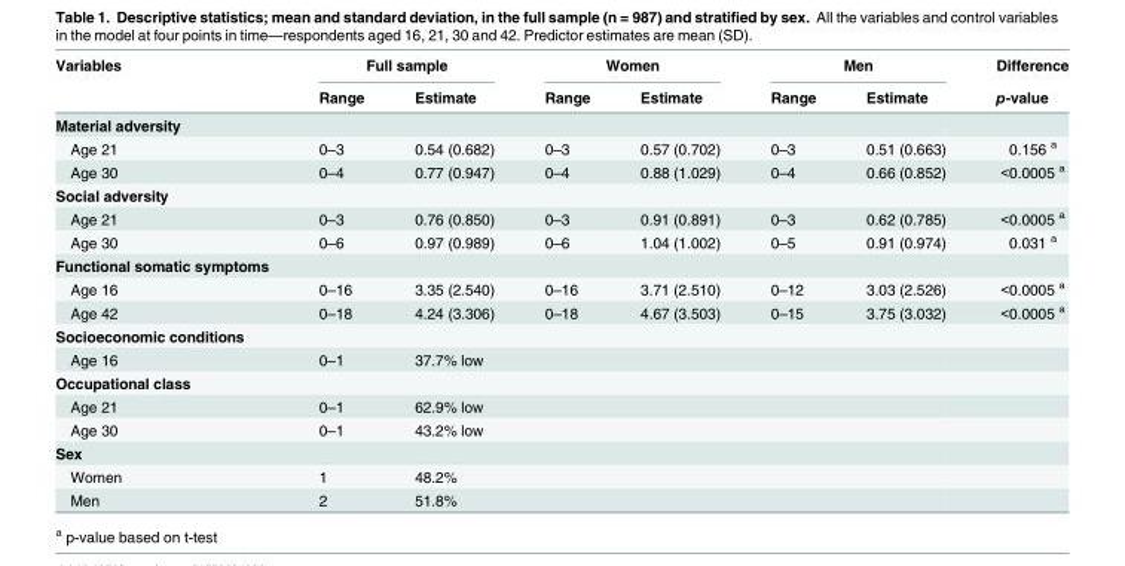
<table><thead><tr><td rowspan="2">Variables</td><td colspan="2">Full sample</td><td colspan="2">Women</td><td colspan="2">Men</td><td rowspan="2">Difference p-value</td></tr><tr><td>Range</td><td>Estimate</td><td>Range</td><td>Estimate</td><td>Range</td><td>Estimate</td></tr></thead><tbody><tr><td colspan="8">Material adversity</td></tr><tr><td>Age 21</td><td>0–3</td><td>0.54 (0.682)</td><td>0–3</td><td>0.57 (0.702)</td><td>0–3</td><td>0.51 (0.663)</td><td>0.156 <sup>a</sup></td></tr><tr><td>Age 30</td><td>0–4</td><td>0.77 (0.947)</td><td>0–4</td><td>0.88 (1.029)</td><td>0–4</td><td>0.66 (0.852)</td><td>&lt;0.0005 <sup>a</sup></td></tr><tr><td colspan="8">Social adversity</td></tr><tr><td>Age 21</td><td>0–3</td><td>0.76 (0.850)</td><td>0–3</td><td>0.91 (0.891)</td><td>0–3</td><td>0.62 (0.785)</td><td>&lt;0.0005 <sup>a</sup></td></tr><tr><td>Age 30</td><td>0–6</td><td>0.97 (0.989)</td><td>0–6</td><td>1.04 (1.002)</td><td>0–5</td><td>0.91 (0.974)</td><td>0.031 <sup>a</sup></td></tr><tr><td colspan="8">Functional somatic symptoms</td></tr><tr><td>Age 16</td><td>0–16</td><td>3.35 (2.540)</td><td>0–16</td><td>3.71 (2.510)</td><td>0–12</td><td>3.03 (2.526)</td><td>&lt;0.0005 <sup>a</sup></td></tr><tr><td>Age 42</td><td>0–18</td><td>4.24 (3.306)</td><td>0–18</td><td>4.67 (3.503)</td><td>0–15</td><td>3.75 (3.032)</td><td>&lt;0.0005 <sup>a</sup></td></tr><tr><td colspan="8">Socioeconomic conditions</td></tr><tr><td>Age 16</td><td>0–1</td><td>37.7% low</td><td></td><td></td><td></td><td></td><td></td></tr><tr><td colspan="8">Occupational class</td></tr><tr><td>Age 21</td><td>0–1</td><td>62.9% low</td><td></td><td></td><td></td><td></td><td></td></tr><tr><td>Age 30</td><td>0–1</td><td>43.2% low</td><td></td><td></td><td></td><td></td><td></td></tr><tr><td colspan="8">Sex</td></tr><tr><td>Women</td><td>1</td><td>48.2%</td><td></td><td></td><td></td><td></td><td></td></tr><tr><td>Men</td><td>2</td><td>51.8%</td><td></td><td></td><td></td><td></td><td></td></tr></tbody></table>